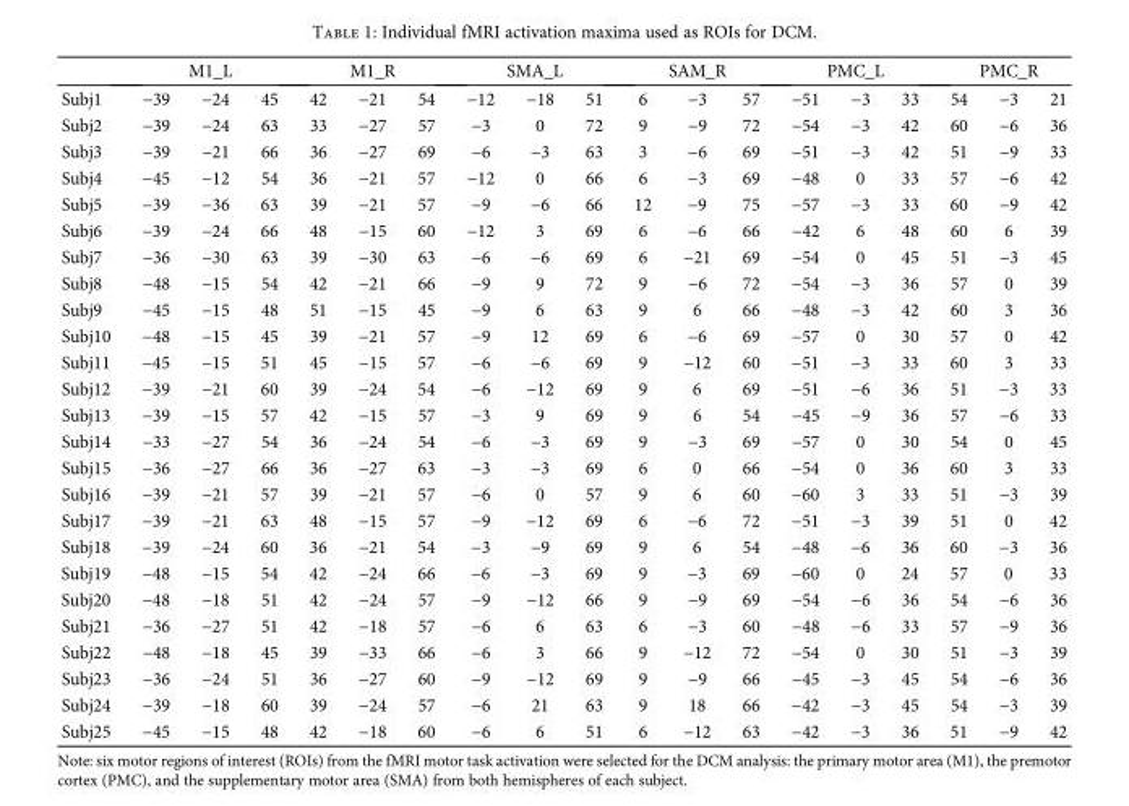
<table><thead><tr><td rowspan="2">Subj1</td><td colspan="3">M1_L</td><td colspan="3">M1_R</td><td colspan="3">SMA_L</td><td colspan="3">SAM_R</td><td colspan="3">PMC_L</td><td colspan="3">PMC_R</td></tr><tr><td>−39</td><td>−24</td><td>45</td><td>42</td><td>−21</td><td>54</td><td>−12</td><td>−18</td><td>51</td><td>6</td><td>−3</td><td>57</td><td>−51</td><td>−3</td><td>33</td><td>54</td><td>−3</td><td>21</td></tr></thead><tbody><tr><td>Subj2</td><td>−39</td><td>−24</td><td>63</td><td>33</td><td>−27</td><td>57</td><td>−3</td><td>0</td><td>72</td><td>9</td><td>−9</td><td>72</td><td>−54</td><td>−3</td><td>42</td><td>60</td><td>−6</td><td>36</td></tr><tr><td>Subj3</td><td>−39</td><td>−21</td><td>66</td><td>36</td><td>−27</td><td>69</td><td>−6</td><td>−3</td><td>63</td><td>3</td><td>−6</td><td>69</td><td>−51</td><td>−3</td><td>42</td><td>51</td><td>−9</td><td>33</td></tr><tr><td>Subj4</td><td>−45</td><td>−12</td><td>54</td><td>36</td><td>−21</td><td>57</td><td>−12</td><td>0</td><td>66</td><td>6</td><td>−3</td><td>69</td><td>−48</td><td>0</td><td>33</td><td>57</td><td>−6</td><td>42</td></tr><tr><td>Subj5</td><td>−39</td><td>−36</td><td>63</td><td>39</td><td>−21</td><td>57</td><td>−9</td><td>−6</td><td>66</td><td>12</td><td>−9</td><td>75</td><td>−57</td><td>−3</td><td>33</td><td>60</td><td>−9</td><td>42</td></tr><tr><td>Subj6</td><td>−39</td><td>−24</td><td>66</td><td>48</td><td>−15</td><td>60</td><td>−12</td><td>3</td><td>69</td><td>6</td><td>−6</td><td>66</td><td>−42</td><td>6</td><td>48</td><td>60</td><td>6</td><td>39</td></tr><tr><td>Subj7</td><td>−36</td><td>−30</td><td>63</td><td>39</td><td>−30</td><td>63</td><td>−6</td><td>−6</td><td>69</td><td>6</td><td>−21</td><td>69</td><td>−54</td><td>0</td><td>45</td><td>51</td><td>−3</td><td>45</td></tr><tr><td>Subj8</td><td>−48</td><td>−15</td><td>54</td><td>42</td><td>−21</td><td>66</td><td>−9</td><td>9</td><td>72</td><td>9</td><td>−6</td><td>72</td><td>−54</td><td>−3</td><td>36</td><td>57</td><td>0</td><td>39</td></tr><tr><td>Subj9</td><td>−45</td><td>−15</td><td>48</td><td>51</td><td>−15</td><td>45</td><td>−9</td><td>6</td><td>63</td><td>9</td><td>6</td><td>66</td><td>−48</td><td>−3</td><td>42</td><td>60</td><td>3</td><td>36</td></tr><tr><td>Subj10</td><td>−48</td><td>−15</td><td>45</td><td>39</td><td>−21</td><td>57</td><td>−9</td><td>12</td><td>69</td><td>6</td><td>−6</td><td>69</td><td>−57</td><td>0</td><td>30</td><td>57</td><td>0</td><td>42</td></tr><tr><td>Subj11</td><td>−45</td><td>−15</td><td>51</td><td>45</td><td>−15</td><td>57</td><td>−6</td><td>−6</td><td>69</td><td>9</td><td>−12</td><td>60</td><td>−51</td><td>−3</td><td>33</td><td>60</td><td>3</td><td>33</td></tr><tr><td>Subj12</td><td>−39</td><td>−21</td><td>60</td><td>39</td><td>−24</td><td>54</td><td>−6</td><td>−12</td><td>69</td><td>9</td><td>6</td><td>69</td><td>−51</td><td>−6</td><td>36</td><td>51</td><td>−3</td><td>33</td></tr><tr><td>Subj13</td><td>−39</td><td>−15</td><td>57</td><td>42</td><td>−15</td><td>57</td><td>−3</td><td>9</td><td>69</td><td>9</td><td>6</td><td>54</td><td>−45</td><td>−9</td><td>36</td><td>57</td><td>−6</td><td>33</td></tr><tr><td>Subj14</td><td>−33</td><td>−27</td><td>54</td><td>36</td><td>−24</td><td>54</td><td>−6</td><td>−3</td><td>69</td><td>9</td><td>−3</td><td>69</td><td>−57</td><td>0</td><td>30</td><td>54</td><td>0</td><td>45</td></tr><tr><td>Subj15</td><td>−36</td><td>−27</td><td>66</td><td>36</td><td>−27</td><td>63</td><td>−3</td><td>−3</td><td>69</td><td>6</td><td>0</td><td>66</td><td>−54</td><td>0</td><td>36</td><td>60</td><td>3</td><td>33</td></tr><tr><td>Subj16</td><td>−39</td><td>−21</td><td>57</td><td>39</td><td>−21</td><td>57</td><td>−6</td><td>0</td><td>57</td><td>9</td><td>6</td><td>60</td><td>−60</td><td>3</td><td>33</td><td>51</td><td>−3</td><td>39</td></tr><tr><td>Subj17</td><td>−39</td><td>−21</td><td>63</td><td>48</td><td>−15</td><td>57</td><td>−9</td><td>−12</td><td>69</td><td>6</td><td>−6</td><td>72</td><td>−51</td><td>−3</td><td>39</td><td>51</td><td>0</td><td>42</td></tr><tr><td>Subj18</td><td>−39</td><td>−24</td><td>60</td><td>36</td><td>−21</td><td>54</td><td>−3</td><td>−9</td><td>69</td><td>9</td><td>6</td><td>54</td><td>−48</td><td>−6</td><td>36</td><td>60</td><td>−3</td><td>36</td></tr><tr><td>Subj19</td><td>−48</td><td>−15</td><td>54</td><td>42</td><td>−24</td><td>66</td><td>−6</td><td>−3</td><td>69</td><td>9</td><td>−3</td><td>69</td><td>−60</td><td>0</td><td>24</td><td>57</td><td>0</td><td>33</td></tr><tr><td>Subj20</td><td>−48</td><td>−18</td><td>51</td><td>42</td><td>−24</td><td>57</td><td>−9</td><td>−12</td><td>66</td><td>9</td><td>−9</td><td>69</td><td>−54</td><td>−6</td><td>36</td><td>54</td><td>−6</td><td>36</td></tr><tr><td>Subj21</td><td>−36</td><td>−27</td><td>51</td><td>42</td><td>−18</td><td>57</td><td>−6</td><td>6</td><td>63</td><td>6</td><td>−3</td><td>60</td><td>−48</td><td>−6</td><td>33</td><td>57</td><td>−9</td><td>36</td></tr><tr><td>Subj22</td><td>−48</td><td>−18</td><td>45</td><td>39</td><td>−33</td><td>66</td><td>−6</td><td>3</td><td>66</td><td>9</td><td>−12</td><td>72</td><td>−54</td><td>0</td><td>30</td><td>51</td><td>−3</td><td>39</td></tr><tr><td>Subj23</td><td>−36</td><td>−24</td><td>51</td><td>36</td><td>−27</td><td>60</td><td>−9</td><td>−12</td><td>69</td><td>9</td><td>−9</td><td>66</td><td>−45</td><td>−3</td><td>45</td><td>54</td><td>−6</td><td>36</td></tr><tr><td>Subj24</td><td>−39</td><td>−18</td><td>60</td><td>39</td><td>−24</td><td>57</td><td>−6</td><td>21</td><td>63</td><td>9</td><td>18</td><td>66</td><td>−42</td><td>−3</td><td>45</td><td>54</td><td>−3</td><td>39</td></tr><tr><td>Subj25</td><td>−45</td><td>−15</td><td>48</td><td>42</td><td>−18</td><td>60</td><td>−6</td><td>6</td><td>51</td><td>6</td><td>−12</td><td>63</td><td>−42</td><td>−3</td><td>36</td><td>51</td><td>−9</td><td>42</td></tr></tbody></table>